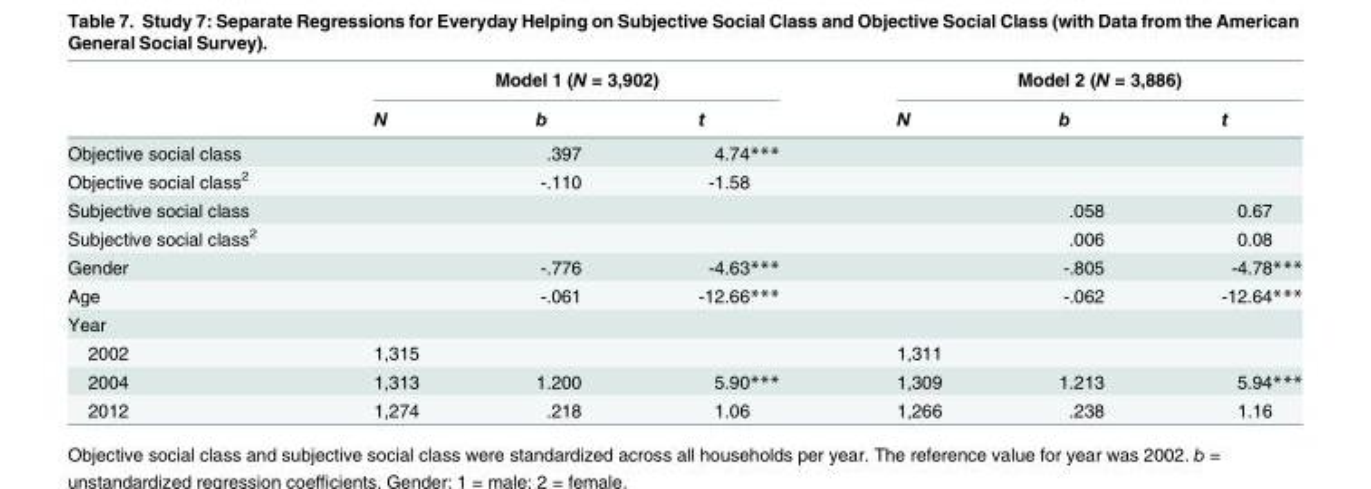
<table><thead><tr><td rowspan="2"></td><td colspan="3">Model 1 (N = 3,902)</td><td colspan="3">Model 2 (N = 3,886)</td></tr><tr><td>N</td><td>b</td><td>t</td><td>N</td><td>b</td><td>t</td></tr></thead><tbody><tr><td>Objective social class</td><td></td><td>.397</td><td>4.74***</td><td></td><td></td><td></td></tr><tr><td>Objective social class<sup>2</sup></td><td></td><td>-.110</td><td>-1.58</td><td></td><td></td><td></td></tr><tr><td>Subjective social class</td><td></td><td></td><td></td><td></td><td>.058</td><td>0.67</td></tr><tr><td>Subjective social class<sup>2</sup></td><td></td><td></td><td></td><td></td><td>.006</td><td>0.08</td></tr><tr><td>Gender</td><td></td><td>-.776</td><td>-4.63***</td><td></td><td>-.805</td><td>-4.78***</td></tr><tr><td>Age</td><td></td><td>-.061</td><td>-12.66***</td><td></td><td>-.062</td><td>-12.64***</td></tr><tr><td colspan="7">Year</td></tr><tr><td>2002</td><td>1,315</td><td></td><td></td><td>1,311</td><td></td><td></td></tr><tr><td>2004</td><td>1,313</td><td>1.200</td><td>5.90***</td><td>1,309</td><td>1.213</td><td>5.94***</td></tr><tr><td>2012</td><td>1,274</td><td>.218</td><td>1.06</td><td>1,266</td><td>.238</td><td>1.16</td></tr></tbody></table>